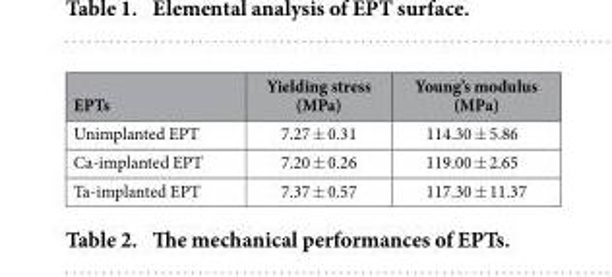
<table><thead><tr><td>EPTs</td><td>Yielding stress (MPa)</td><td>Young’s modulus (MPa)</td></tr></thead><tbody><tr><td>Unimplanted EPT</td><td>7.27 ± 0.31</td><td>114.30 ± 5.86</td></tr><tr><td>Ca-implanted EPT</td><td>7.20 ± 0.26</td><td>119.00 ± 2.65</td></tr><tr><td>Ta-implanted EPT</td><td>7.37 ± 0.57</td><td>117.30 ± 11.37</td></tr></tbody></table>